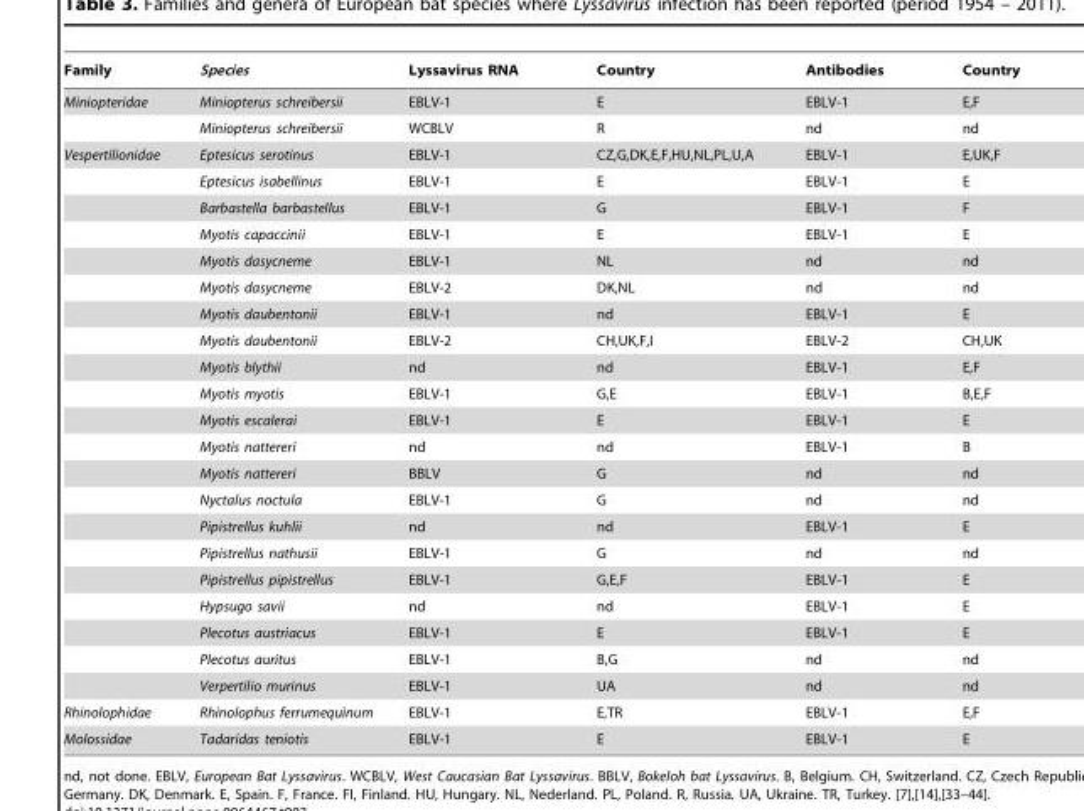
<table><thead><tr><td>Family</td><td>Species</td><td>Lyssavirus RNA</td><td>Country</td><td>Antibodies</td><td>Country</td></tr></thead><tbody><tr><td rowspan="2">Miniopteridae</td><td>Miniopterus schreibersii</td><td>EBLV-1</td><td>E</td><td>EBLV-1</td><td>E,F</td></tr><tr><td>Miniopterus schreibersii</td><td>WCBLV</td><td>R</td><td>nd</td><td>nd</td></tr><tr><td rowspan="21">Vespertilionidae</td><td>Eptesicus serotinus</td><td>EBLV-1</td><td>CZ,G,DK,E,F,HU,NL,PL,U,A</td><td>EBLV-1</td><td>E,UK,F</td></tr><tr><td>Eptesicus isabellinus</td><td>EBLV-1</td><td>E</td><td>EBLV-1</td><td>E</td></tr><tr><td>Barbastella barbastellus</td><td>EBLV-1</td><td>G</td><td>EBLV-1</td><td>F</td></tr><tr><td>Myotis capaccinii</td><td>EBLV-1</td><td>E</td><td>EBLV-1</td><td>E</td></tr><tr><td>Myotis dasycneme</td><td>EBLV-1</td><td>NL</td><td>nd</td><td>nd</td></tr><tr><td>Myotis dasycneme</td><td>EBLV-2</td><td>DK,NL</td><td>nd</td><td>nd</td></tr><tr><td>Myotis daubentonii</td><td>EBLV-1</td><td>nd</td><td>EBLV-1</td><td>E</td></tr><tr><td>Myotis daubentonii</td><td>EBLV-2</td><td>CH,UK,F,I</td><td>EBLV-2</td><td>CH,UK</td></tr><tr><td>Myotis blythii</td><td>nd</td><td>nd</td><td>EBLV-1</td><td>E,F</td></tr><tr><td>Myotis myotis</td><td>EBLV-1</td><td>G,E</td><td>EBLV-1</td><td>B,E,F</td></tr><tr><td>Myotis escalerai</td><td>EBLV-1</td><td>E</td><td>EBLV-1</td><td>E</td></tr><tr><td>Myotis nattereri</td><td>nd</td><td>nd</td><td>EBLV-1</td><td>B</td></tr><tr><td>Myotis nattereri</td><td>BBLV</td><td>G</td><td>nd</td><td>nd</td></tr><tr><td>Nyctalus noctula</td><td>EBLV-1</td><td>G</td><td>nd</td><td>nd</td></tr><tr><td>Pipistrellus kuhlii</td><td>nd</td><td>nd</td><td>EBLV-1</td><td>E</td></tr><tr><td>Pipistrellus nathusii</td><td>EBLV-1</td><td>G</td><td>nd</td><td>nd</td></tr><tr><td>Pipistrellus pipistrellus</td><td>EBLV-1</td><td>G,E,F</td><td>EBLV-1</td><td>E</td></tr><tr><td>Hypsugo savii</td><td>nd</td><td>nd</td><td>EBLV-1</td><td>E</td></tr><tr><td>Plecotus austriacus</td><td>EBLV-1</td><td>E</td><td>EBLV-1</td><td>E</td></tr><tr><td>Plecotus auritus</td><td>EBLV-1</td><td>B,G</td><td>nd</td><td>nd</td></tr><tr><td>Verpertilio murinus</td><td>EBLV-1</td><td>UA</td><td>nd</td><td>nd</td></tr><tr><td>Rhinolophidae</td><td>Rhinolophus ferrumequinum</td><td>EBLV-1</td><td>E,TR</td><td>EBLV-1</td><td>E,F</td></tr><tr><td>Molossidae</td><td>Tadaridas teniotis</td><td>EBLV-1</td><td>E</td><td>EBLV-1</td><td>E</td></tr></tbody></table>